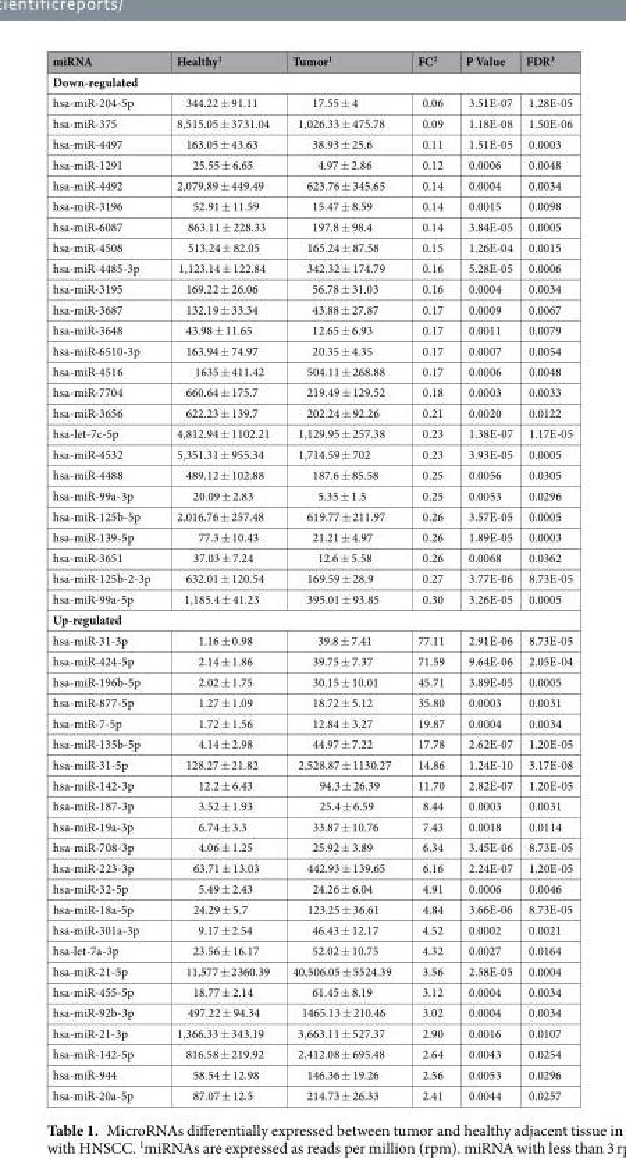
<table><thead><tr><td>miRNA</td><td>Healthy<sup>1</sup></td><td>Tumor<sup>1</sup></td><td>FC<sup>2</sup></td><td>P Value</td><td>FDR<sup>3</sup></td></tr></thead><tbody><tr><td colspan="6">Down-regulated</td></tr><tr><td>hsa-miR-204-5p</td><td>344.22 ± 91.11</td><td>17.55 ± 4</td><td>0.06</td><td>3.51E-07</td><td>1.28E-05</td></tr><tr><td>hsa-miR-375</td><td>8,515.05 ± 3731.04</td><td>1,026.33 ± 475.78</td><td>0.09</td><td>1.18E-08</td><td>1.50E-06</td></tr><tr><td>hsa-miR-4497</td><td>163.05 ± 43.63</td><td>38.93 ± 25.6</td><td>0.11</td><td>1.51E-05</td><td>0.0003</td></tr><tr><td>hsa-miR-1291</td><td>25.55 ± 6.65</td><td>4.97 ± 2.86</td><td>0.12</td><td>0.0006</td><td>0.0048</td></tr><tr><td>hsa-miR-4492</td><td>2,079.89 ± 449.49</td><td>623.76 ± 345.65</td><td>0.14</td><td>0.0004</td><td>0.0034</td></tr><tr><td>hsa-miR-3196</td><td>52.91 ± 11.59</td><td>15.47 ± 8.59</td><td>0.14</td><td>0.0015</td><td>0.0098</td></tr><tr><td>hsa-miR-6087</td><td>863.11 ± 228.33</td><td>197.8 ± 98.4</td><td>0.14</td><td>3.84E-05</td><td>0.0005</td></tr><tr><td>hsa-miR-4508</td><td>513.24 ± 82.05</td><td>165.24 ± 87.58</td><td>0.15</td><td>1.26E-04</td><td>0.0015</td></tr><tr><td>hsa-miR-4485-3p</td><td>1,123.14 ± 122.84</td><td>342.32 ± 174.79</td><td>0.16</td><td>5.28E-05</td><td>0.0006</td></tr><tr><td>hsa-miR-3195</td><td>169.22 ± 26.06</td><td>56.78 ± 31.03</td><td>0.16</td><td>0.0004</td><td>0.0034</td></tr><tr><td>hsa-miR-3687</td><td>132.19 ± 33.34</td><td>43.88 ± 27.87</td><td>0.17</td><td>0.0009</td><td>0.0067</td></tr><tr><td>hsa-miR-3648</td><td>43.98 ± 11.65</td><td>12.65 ± 6.93</td><td>0.17</td><td>0.0011</td><td>0.0079</td></tr><tr><td>hsa-miR-6510-3p</td><td>163.94 ± 74.97</td><td>20.35 ± 4.35</td><td>0.17</td><td>0.0007</td><td>0.0054</td></tr><tr><td>hsa-miR-4516</td><td>1635 ± 411.42</td><td>504.11 ± 268.88</td><td>0.17</td><td>0.0006</td><td>0.0048</td></tr><tr><td>hsa-miR-7704</td><td>660.64 ± 175.7</td><td>219.49 ± 129.52</td><td>0.18</td><td>0.0003</td><td>0.0033</td></tr><tr><td>hsa-miR-3656</td><td>622.23 ± 139.7</td><td>202.24 ± 92.26</td><td>0.21</td><td>0.0020</td><td>0.0122</td></tr><tr><td>hsa-let-7c-5p</td><td>4,812.94 ± 1102.21</td><td>1,129.95 ± 257.38</td><td>0.23</td><td>1.38E-07</td><td>1.17E-05</td></tr><tr><td>hsa-miR-4532</td><td>5,351.31 ± 955.34</td><td>1,714.59 ± 702</td><td>0.23</td><td>3.93E-05</td><td>0.0005</td></tr><tr><td>hsa-miR-4488</td><td>489.12 ± 102.88</td><td>187.6 ± 85.58</td><td>0.25</td><td>0.0056</td><td>0.0305</td></tr><tr><td>hsa-miR-99a-3p</td><td>20.09 ± 2.83</td><td>5.35 ± 1.5</td><td>0.25</td><td>0.0053</td><td>0.0296</td></tr><tr><td>hsa-miR-125b-5p</td><td>2,016.76 ± 257.48</td><td>619.77 ± 211.97</td><td>0.26</td><td>3.57E-05</td><td>0.0005</td></tr><tr><td>hsa-miR-139-5p</td><td>77.3 ± 10.43</td><td>21.21 ± 4.97</td><td>0.26</td><td>1.89E-05</td><td>0.0003</td></tr><tr><td>hsa-miR-3651</td><td>37.03 ± 7.24</td><td>12.6 ± 5.58</td><td>0.26</td><td>0.0068</td><td>0.0362</td></tr><tr><td>hsa-miR-125b-2-3p</td><td>632.01 ± 120.54</td><td>169.59 ± 28.9</td><td>0.27</td><td>3.77E-06</td><td>8.73E-05</td></tr><tr><td>hsa-miR-99a-5p</td><td>1,185.4 ± 41.23</td><td>395.01 ± 93.85</td><td>0.30</td><td>3.26E-05</td><td>0.0005</td></tr><tr><td colspan="6">Up-regulated</td></tr><tr><td>hsa-miR-31-3p</td><td>1.16 ± 0.98</td><td>39.8 ± 7.41</td><td>77.11</td><td>2.91E-06</td><td>8.73E-05</td></tr><tr><td>hsa-miR-424-5p</td><td>2.14 ± 1.86</td><td>39.75 ± 7.37</td><td>71.59</td><td>9.64E-06</td><td>2.05E-04</td></tr><tr><td>hsa-miR-196b-5p</td><td>2.02 ± 1.75</td><td>30.15 ± 10.01</td><td>45.71</td><td>3.89E-05</td><td>0.0005</td></tr><tr><td>hsa-miR-877-5p</td><td>1.27 ± 1.09</td><td>18.72 ± 5.12</td><td>35.80</td><td>0.0003</td><td>0.0031</td></tr><tr><td>hsa-miR-7-5p</td><td>1.72 ± 1.56</td><td>12.84 ± 3.27</td><td>19.87</td><td>0.0004</td><td>0.0034</td></tr><tr><td>hsa-miR-135b-5p</td><td>4.14 ± 2.98</td><td>44.97 ± 7.22</td><td>17.78</td><td>2.62E-07</td><td>1.20E-05</td></tr><tr><td>hsa-miR-31-5p</td><td>128.27 ± 21.82</td><td>2,528.87 ± 1130.27</td><td>14.86</td><td>1.24E-10</td><td>3.17E-08</td></tr><tr><td>hsa-miR-142-3p</td><td>12.2 ± 6.43</td><td>94.3 ± 26.39</td><td>11.70</td><td>2.82E-07</td><td>1.20E-05</td></tr><tr><td>hsa-miR-187-3p</td><td>3.52 ± 1.93</td><td>25.4 ± 6.59</td><td>8.44</td><td>0.0003</td><td>0.0031</td></tr><tr><td>hsa-miR-19a-3p</td><td>6.74 ± 3.3</td><td>33.87 ± 10.76</td><td>7.43</td><td>0.0018</td><td>0.0114</td></tr><tr><td>hsa-miR-708-3p</td><td>4.06 ± 1.25</td><td>25.92 ± 3.89</td><td>6.34</td><td>3.45E-06</td><td>8.73E-05</td></tr><tr><td>hsa-miR-223-3p</td><td>63.71 ± 13.03</td><td>442.93 ± 139.65</td><td>6.16</td><td>2.24E-07</td><td>1.20E-05</td></tr><tr><td>hsa-miR-32-5p</td><td>5.49 ± 2.43</td><td>24.26 ± 6.04</td><td>4.91</td><td>0.0006</td><td>0.0046</td></tr><tr><td>hsa-miR-18a-5p</td><td>24.29 ± 5.7</td><td>123.25 ± 36.61</td><td>4.84</td><td>3.66E-06</td><td>8.73E-05</td></tr><tr><td>hsa-miR-301a-3p</td><td>9.17 ± 2.54</td><td>46.43 ± 12.17</td><td>4.52</td><td>0.0002</td><td>0.0021</td></tr><tr><td>hsa-let-7a-3p</td><td>23.56 ± 16.17</td><td>52.02 ± 10.75</td><td>4.32</td><td>0.0027</td><td>0.0164</td></tr><tr><td>hsa-miR-21-5p</td><td>11,577 ± 2360.39</td><td>40,506.05 ± 5524.39</td><td>3.56</td><td>2.58E-05</td><td>0.0004</td></tr><tr><td>hsa-miR-455-5p</td><td>18.77 ± 2.14</td><td>61.45 ± 8.19</td><td>3.12</td><td>0.0004</td><td>0.0034</td></tr><tr><td>hsa-miR-92b-3p</td><td>497.22 ± 94.34</td><td>1465.13 ± 210.46</td><td>3.02</td><td>0.0004</td><td>0.0034</td></tr><tr><td>hsa-miR-21-3p</td><td>1,366.33 ± 343.19</td><td>3,663.11 ± 527.37</td><td>2.90</td><td>0.0016</td><td>0.0107</td></tr><tr><td>hsa-miR-142-5p</td><td>816.58 ± 219.92</td><td>2,412.08 ± 695.48</td><td>2.64</td><td>0.0043</td><td>0.0254</td></tr><tr><td>hsa-miR-944</td><td>58.54 ± 12.98</td><td>146.36 ± 19.26</td><td>2.56</td><td>0.0053</td><td>0.0296</td></tr><tr><td>hsa-miR-20a-5p</td><td>87.07 ± 12.5</td><td>214.73 ± 26.33</td><td>2.41</td><td>0.0044</td><td>0.0257</td></tr></tbody></table>